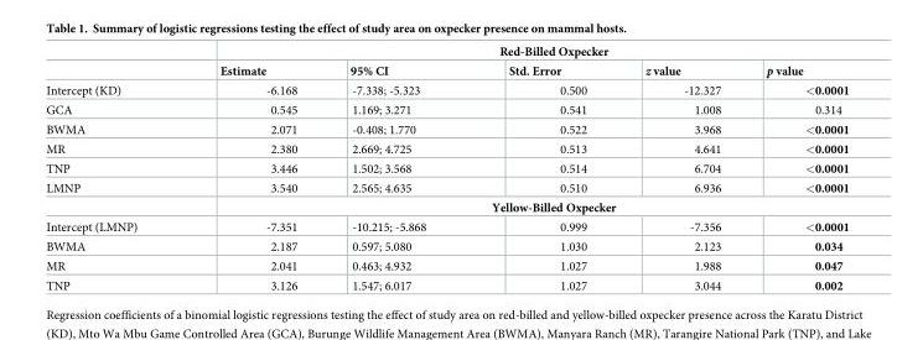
<table><thead><tr><td rowspan="2"></td><td colspan="5">Red-Billed Oxpecker</td></tr><tr><td>Estimate</td><td>95% CI</td><td>Std. Error</td><td>z value</td><td>p value</td></tr></thead><tbody><tr><td>Intercept (KD)</td><td>-6.168</td><td>-7.338; -5.323</td><td>0.500</td><td>-12.327</td><td>&lt;0.0001</td></tr><tr><td>GCA</td><td>0.545</td><td>1.169; 3.271</td><td>0.541</td><td>1.008</td><td>0.314</td></tr><tr><td>BWMA</td><td>2.071</td><td>-0.408; 1.770</td><td>0.522</td><td>3.968</td><td>&lt;0.0001</td></tr><tr><td>MR</td><td>2.380</td><td>2.669; 4.725</td><td>0.513</td><td>4.641</td><td>&lt;0.0001</td></tr><tr><td>TNP</td><td>3.446</td><td>1.502; 3.568</td><td>0.514</td><td>6.704</td><td>&lt;0.0001</td></tr><tr><td rowspan="2">LMNP</td><td>3.540</td><td>2.565; 4.635</td><td>0.510</td><td>6.936</td><td>&lt;0.0001</td></tr><tr><td colspan="5">Yellow-Billed Oxpecker</td></tr><tr><td>Intercept (LMNP)</td><td>-7.351</td><td>-10.215; -5.868</td><td>0.999</td><td>-7.356</td><td>&lt;0.0001</td></tr><tr><td>BWMA</td><td>2.187</td><td>0.597; 5.080</td><td>1.030</td><td>2.123</td><td>0.034</td></tr><tr><td>MR</td><td>2.041</td><td>0.463; 4.932</td><td>1.027</td><td>1.988</td><td>0.047</td></tr><tr><td>TNP</td><td>3.126</td><td>1.547; 6.017</td><td>1.027</td><td>3.044</td><td>0.002</td></tr></tbody></table>